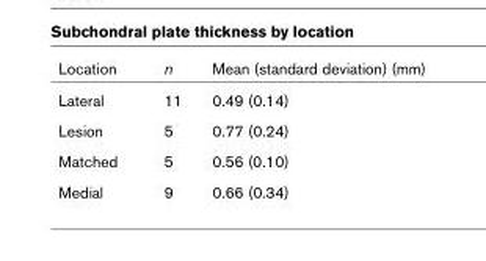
<table><thead><tr><td>Location</td><td>n</td><td>Mean (standard deviation) (mm)</td></tr></thead><tbody><tr><td>Lateral</td><td>11</td><td>0.49 (0.14)</td></tr><tr><td>Lesion</td><td>5</td><td>0.77 (0.24)</td></tr><tr><td>Matched</td><td>5</td><td>0.56 (0.10)</td></tr><tr><td>Medial</td><td>9</td><td>0.66 (0.34)</td></tr></tbody></table>